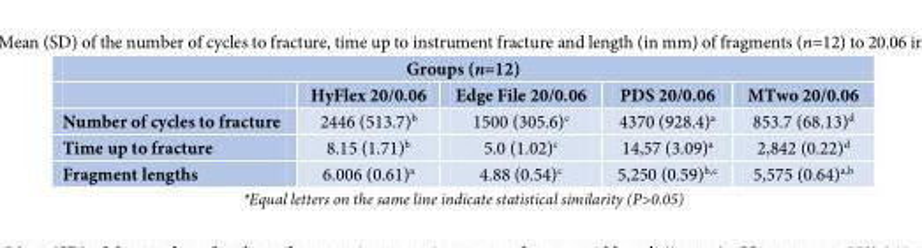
<table><thead><tr><td colspan="5">Groups (n=12)</td></tr><tr><td></td><td>HyFlex 20/0.06</td><td>Edge File 20/0.06</td><td>PDS 20/0.06</td><td>MTwo 20/0.06</td></tr></thead><tbody><tr><td>Number of cycles to fracture</td><td>2446 (513.7)<sup>b</sup></td><td>1500 (305.6)<sup>c</sup></td><td>4370 (928.4)<sup>a</sup></td><td>853.7 (68.13)<sup>d</sup></td></tr><tr><td>Time up to fracture</td><td>8.15 (1.71)<sup>b</sup></td><td>5.0 (1.02)<sup>c</sup></td><td>14,57 (3.09)<sup>a</sup></td><td>2,842 (0.22)<sup>d</sup></td></tr><tr><td>Fragment lengths</td><td>6.006 (0.61)<sup>a</sup></td><td>4.88 (0.54)<sup>c</sup></td><td>5,250 (0.59)<sup>b,c</sup></td><td>5,575 (0.64)<sup>a,b</sup></td></tr></tbody></table>